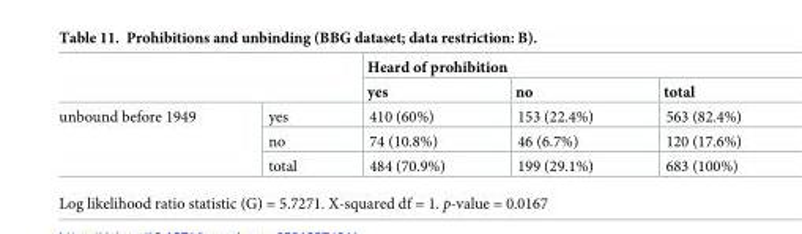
<table><thead><tr><td rowspan="2"></td><td rowspan="2"></td><td colspan="3">Heard of prohibition</td></tr><tr><td>yes</td><td>no</td><td>total</td></tr></thead><tbody><tr><td rowspan="3">unbound before 1949</td><td>yes</td><td>410 (60%)</td><td>153 (22.4%)</td><td>563 (82.4%)</td></tr><tr><td>no</td><td>74 (10.8%)</td><td>46 (6.7%)</td><td>120 (17.6%)</td></tr><tr><td>total</td><td>484 (70.9%)</td><td>199 (29.1%)</td><td>683 (100%)</td></tr></tbody></table>